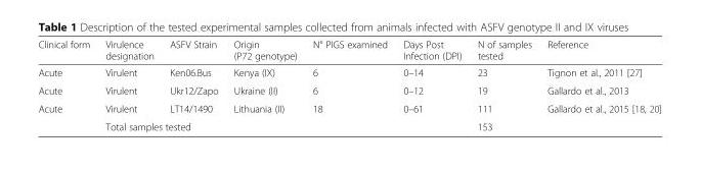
<table><thead><tr><td>Clinical form</td><td>Virulence designation</td><td>ASFV Strain</td><td>Origin (P72 genotype)</td><td>N° PIGS examined</td><td>Days Post Infection (DPI)</td><td>N of samples tested</td><td>Reference</td></tr></thead><tbody><tr><td>Acute</td><td>Virulent</td><td>Ken06.Bus</td><td>Kenya (IX)</td><td>6</td><td>0–14</td><td>23</td><td>Tignon et al., 2011 [27]</td></tr><tr><td>Acute</td><td>Virulent</td><td>Ukr12/Zapo</td><td>Ukraine (II)</td><td>6</td><td>0–12</td><td>19</td><td>Gallardo et al., 2013</td></tr><tr><td rowspan="2">Acute</td><td>Virulent</td><td>LT14/1490</td><td>Lithuania (II)</td><td>18</td><td>0–61</td><td>111</td><td>Gallardo et al., 2015 [18, 20]</td></tr><tr><td colspan="5">Total samples tested</td><td>153</td><td></td></tr></tbody></table>